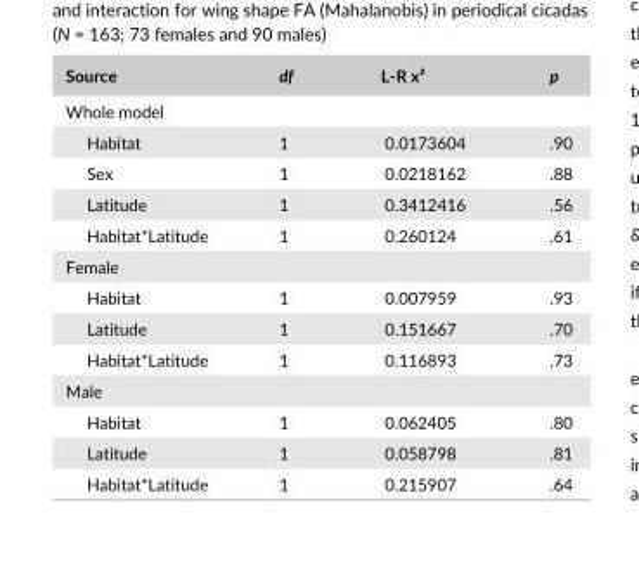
<table><thead><tr><td>Source</td><td>df</td><td>L- R x²</td><td>p</td></tr></thead><tbody><tr><td colspan="4">Whole model</td></tr><tr><td>Habitat</td><td>1</td><td>0.0173604</td><td>.90</td></tr><tr><td>Sex</td><td>1</td><td>0.0218162</td><td>.88</td></tr><tr><td>Latitude</td><td>1</td><td>0.3412416</td><td>.56</td></tr><tr><td>Habitat*Latitude</td><td>1</td><td>0.260124</td><td>.61</td></tr><tr><td colspan="4">Female</td></tr><tr><td>Habitat</td><td>1</td><td>0.007959</td><td>.93</td></tr><tr><td>Latitude</td><td>1</td><td>0.151667</td><td>.70</td></tr><tr><td>Habitat*Latitude</td><td>1</td><td>0.116893</td><td>.73</td></tr><tr><td colspan="4">Male</td></tr><tr><td>Habitat</td><td>1</td><td>0.062405</td><td>.80</td></tr><tr><td>Latitude</td><td>1</td><td>0.058798</td><td>.81</td></tr><tr><td>Habitat*Latitude</td><td>1</td><td>0.215907</td><td>.64</td></tr></tbody></table>